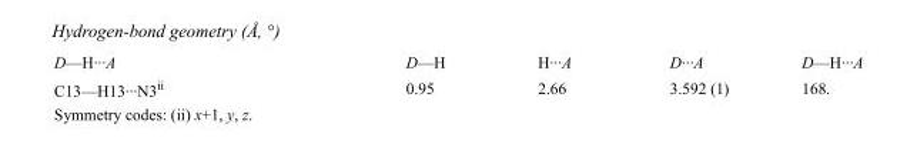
<table><tbody><tr><td>D—H···A</td><td>D—H</td><td>H···A</td><td>D···A</td><td>D—H···A</td></tr><tr><td>C13—H13···N3<sup>ii</sup></td><td>0.95</td><td>2.66</td><td>3.592 (1)</td><td>168.</td></tr></tbody></table>